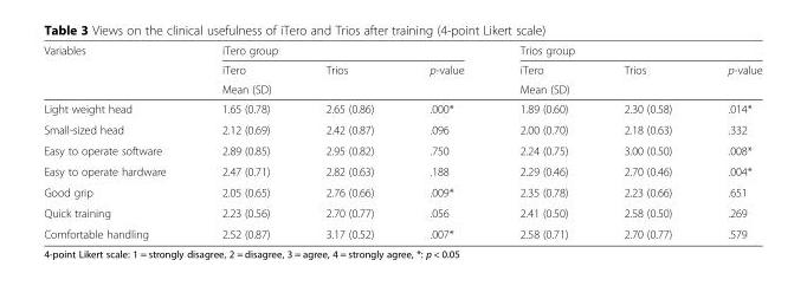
<table><thead><tr><td rowspan="3">Variables</td><td colspan="3">iTero group</td><td colspan="3">Trios group</td></tr><tr><td>iTero</td><td>Trios</td><td rowspan="2">p-value</td><td>iTero</td><td>Trios</td><td rowspan="2">p-value</td></tr><tr><td colspan="2">Mean (SD)</td><td colspan="2">Mean (SD)</td></tr></thead><tbody><tr><td>Light weight head</td><td>1.65 (0.78)</td><td>2.65 (0.86)</td><td>.000*</td><td>1.89 (0.60)</td><td>2.30 (0.58)</td><td>.014*</td></tr><tr><td>Small-sized head</td><td>2.12 (0.69)</td><td>2.42 (0.87)</td><td>.096</td><td>2.00 (0.70)</td><td>2.18 (0.63)</td><td>.332</td></tr><tr><td>Easy to operate software</td><td>2.89 (0.85)</td><td>2.95 (0.82)</td><td>.750</td><td>2.24 (0.75)</td><td>3.00 (0.50)</td><td>.008*</td></tr><tr><td>Easy to operate hardware</td><td>2.47 (0.71)</td><td>2.82 (0.63)</td><td>.188</td><td>2.29 (0.46)</td><td>2.70 (0.46)</td><td>.004*</td></tr><tr><td>Good grip</td><td>2.05 (0.65)</td><td>2.76 (0.66)</td><td>.009*</td><td>2.35 (0.78)</td><td>2.23 (0.66)</td><td>.651</td></tr><tr><td>Quick training</td><td>2.23 (0.56)</td><td>2.70 (0.77)</td><td>.056</td><td>2.41 (0.50)</td><td>2.58 (0.50)</td><td>.269</td></tr><tr><td>Comfortable handling</td><td>2.52 (0.87)</td><td>3.17 (0.52)</td><td>.007*</td><td>2.58 (0.71)</td><td>2.70 (0.77)</td><td>.579</td></tr></tbody></table>